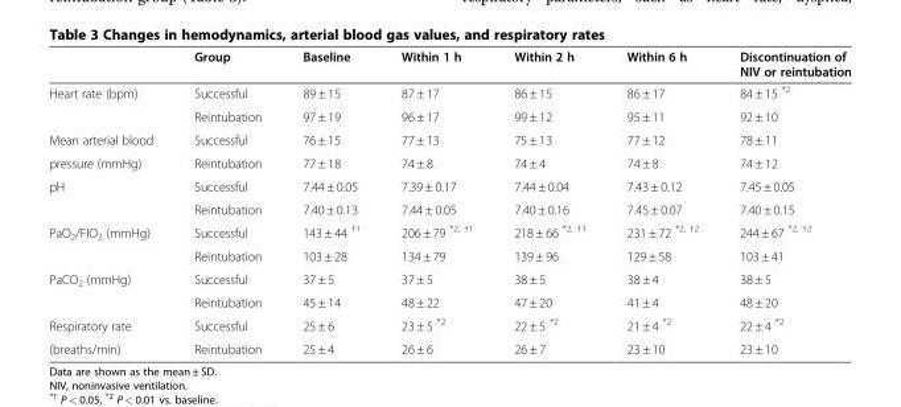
<table><thead><tr><td></td><td>Group</td><td>Baseline</td><td>Within 1 h</td><td>Within 2 h</td><td>Within 6 h</td><td>Discontinuation of NIV or reintubation</td></tr></thead><tbody><tr><td rowspan="2">Heart rate (bpm)</td><td>Successful</td><td>89 ± 15</td><td>87 ± 17</td><td>86 ± 15</td><td>86 ± 17</td><td>84 ± 15 <sup>*2</sup></td></tr><tr><td>Reintubation</td><td>97 ± 19</td><td>96 ± 17</td><td>99 ± 12</td><td>95 ± 11</td><td>92 ± 10</td></tr><tr><td>Mean arterial blood</td><td>Successful</td><td>76 ± 15</td><td>77 ± 13</td><td>75 ± 13</td><td>77 ± 12</td><td>78 ± 11</td></tr><tr><td>pressure (mmHg)</td><td>Reintubation</td><td>77 ± 18</td><td>74 ± 8</td><td>74 ± 4</td><td>74 ± 8</td><td>74 ± 12</td></tr><tr><td rowspan="2">pH</td><td>Successful</td><td>7.44 ± 0.05</td><td>7.39 ± 0.17</td><td>7.44 ± 0.04</td><td>7.43 ± 0.12</td><td>7.45 ± 0.05</td></tr><tr><td>Reintubation</td><td>7.40 ± 0.13</td><td>7.44 ± 0.05</td><td>7.40 ± 0.16</td><td>7.45 ± 0.07</td><td>7.40 ± 0.15</td></tr><tr><td rowspan="2">PaO<sub>2</sub>/FIO<sub>2</sub> (mmHg)</td><td>Successful</td><td>143 ± 44 <sup>†1</sup></td><td>206 ± 79 <sup>*2, †1</sup></td><td>218 ± 66 <sup>*2, †1</sup></td><td>231 ± 72 <sup>*2, †2</sup></td><td>244 ± 67 <sup>*2, †2</sup></td></tr><tr><td>Reintubation</td><td>103 ± 28</td><td>134 ± 79</td><td>139 ± 96</td><td>129 ± 58</td><td>103 ± 41</td></tr><tr><td rowspan="2">PaCO<sub>2</sub> (mmHg)</td><td>Successful</td><td>37 ± 5</td><td>37 ± 5</td><td>38 ± 5</td><td>38 ± 4</td><td>38 ± 5</td></tr><tr><td>Reintubation</td><td>45 ± 14</td><td>48 ± 22</td><td>47 ± 20</td><td>41 ± 4</td><td>48 ± 20</td></tr><tr><td>Respiratory rate</td><td>Successful</td><td>25 ± 6</td><td>23 ± 5 <sup>*2</sup></td><td>22 ± 5 <sup>*2</sup></td><td>21 ± 4 <sup>*2</sup></td><td>22 ± 4 <sup>*2</sup></td></tr><tr><td>(breaths/min)</td><td>Reintubation</td><td>25 ± 4</td><td>26 ± 6</td><td>26 ± 7</td><td>23 ± 10</td><td>23 ± 10</td></tr></tbody></table>